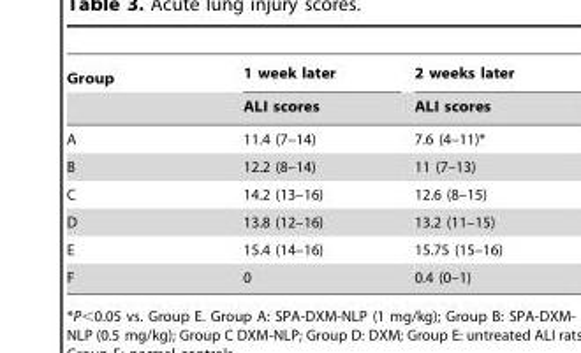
<table><thead><tr><td rowspan="2">Group</td><td rowspan="2">1 week later ALI scores</td><td rowspan="2">2 weeks later ALI scores</td></tr><tr></tr></thead><tbody><tr><td>A</td><td>11.4 (7–14)</td><td>7.6 (4–11)*</td></tr><tr><td>B</td><td>12.2 (8–14)</td><td>11 (7–13)</td></tr><tr><td>C</td><td>14.2 (13–16)</td><td>12.6 (8–15)</td></tr><tr><td>D</td><td>13.8 (12–16)</td><td>13.2 (11–15)</td></tr><tr><td>E</td><td>15.4 (14–16)</td><td>15.75 (15–16)</td></tr><tr><td>F</td><td>0</td><td>0.4 (0–1)</td></tr></tbody></table>